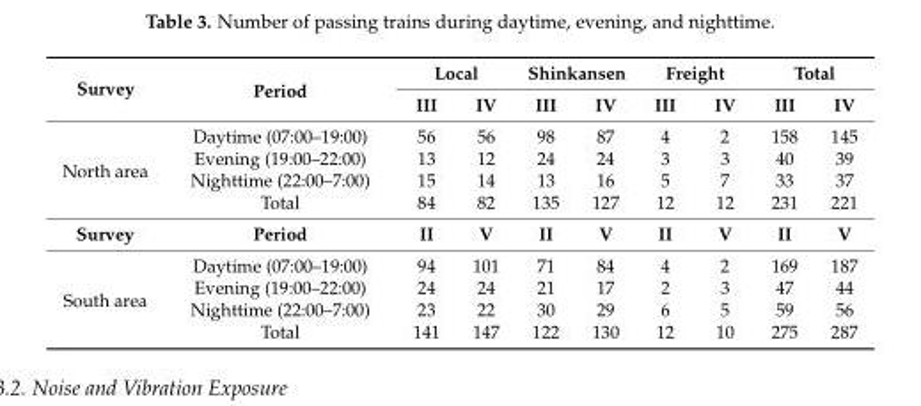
<table><thead><tr><td rowspan="2">Survey</td><td rowspan="2">Period</td><td colspan="2">Local</td><td colspan="2">Shinkansen</td><td colspan="2">Freight</td><td colspan="2">Total</td></tr><tr><td>III</td><td>IV</td><td>III</td><td>IV</td><td>III</td><td>IV</td><td>III</td><td>IV</td></tr></thead><tbody><tr><td rowspan="4">North area</td><td>Daytime (07:00–19:00)</td><td>56</td><td>56</td><td>98</td><td>87</td><td>4</td><td>2</td><td>158</td><td>145</td></tr><tr><td>Evening (19:00–22:00)</td><td>13</td><td>12</td><td>24</td><td>24</td><td>3</td><td>3</td><td>40</td><td>39</td></tr><tr><td>Nighttime (22:00–7:00)</td><td>15</td><td>14</td><td>13</td><td>16</td><td>5</td><td>7</td><td>33</td><td>37</td></tr><tr><td>Total</td><td>84</td><td>82</td><td>135</td><td>127</td><td>12</td><td>12</td><td>231</td><td>221</td></tr><tr><td>Survey</td><td>Period</td><td>II</td><td>V</td><td>II</td><td>V</td><td>II</td><td>V</td><td>II</td><td>V</td></tr><tr><td rowspan="4">South area</td><td>Daytime (07:00–19:00)</td><td>94</td><td>101</td><td>71</td><td>84</td><td>4</td><td>2</td><td>169</td><td>187</td></tr><tr><td>Evening (19:00–22:00)</td><td>24</td><td>24</td><td>21</td><td>17</td><td>2</td><td>3</td><td>47</td><td>44</td></tr><tr><td>Nighttime (22:00–7:00)</td><td>23</td><td>22</td><td>30</td><td>29</td><td>6</td><td>5</td><td>59</td><td>56</td></tr><tr><td>Total</td><td>141</td><td>147</td><td>122</td><td>130</td><td>12</td><td>10</td><td>275</td><td>287</td></tr></tbody></table>